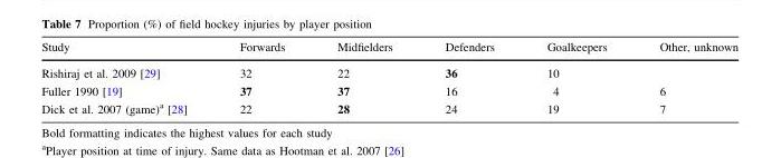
<table><thead><tr><td>Study</td><td>Forwards</td><td>Midfielders</td><td>Defenders</td><td>Goalkeepers</td><td>Other, unknown</td></tr></thead><tbody><tr><td>Rishiraj et al. 2009 [29]</td><td>32</td><td>22</td><td>36</td><td>10</td><td></td></tr><tr><td>Fuller 1990 [19]</td><td>37</td><td>37</td><td>16</td><td>4</td><td>6</td></tr><tr><td>Dick et al. 2007 (game)<sup>a</sup> [28]</td><td>22</td><td>28</td><td>24</td><td>19</td><td>7</td></tr></tbody></table>